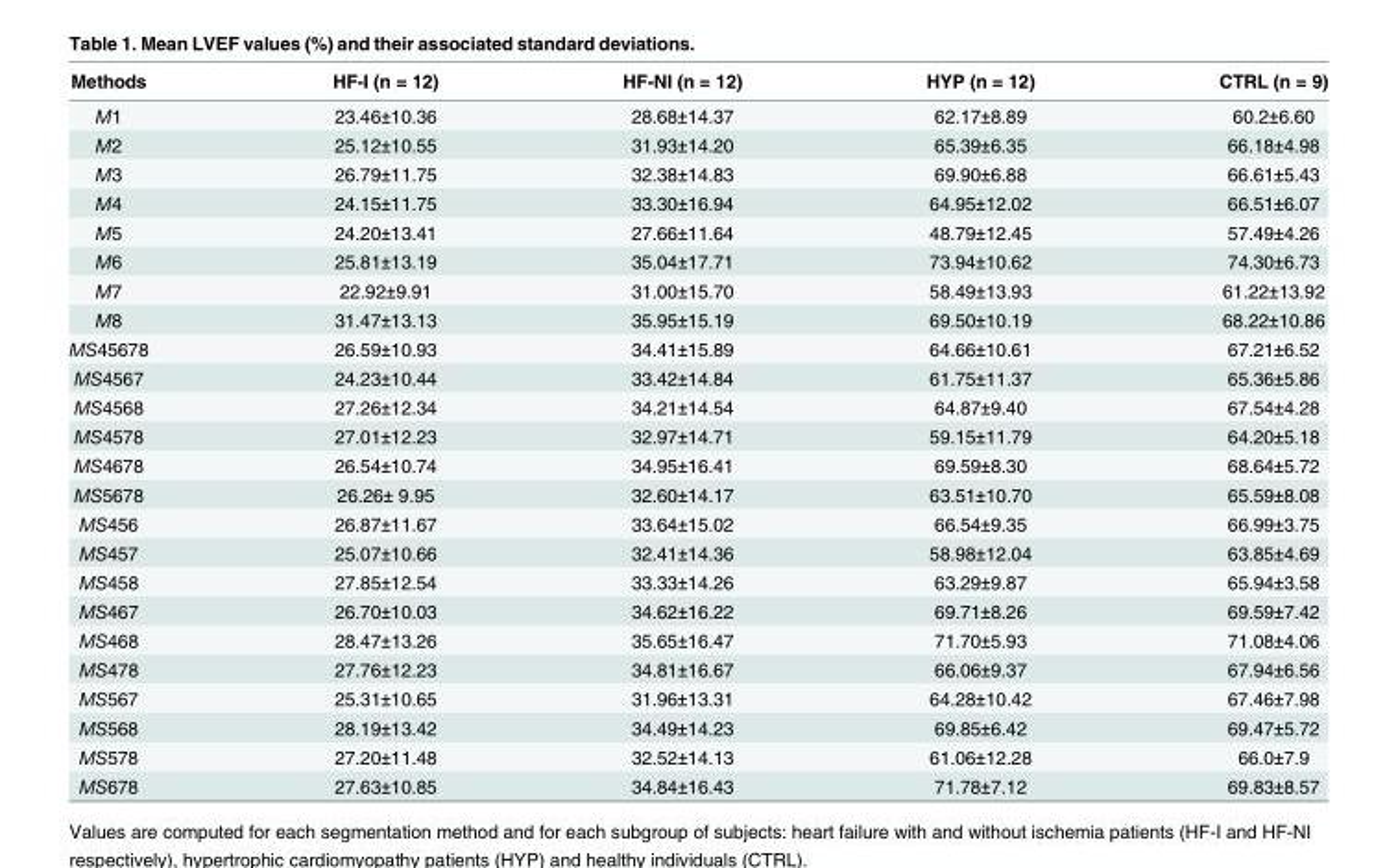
<table><thead><tr><td>Methods</td><td>HF-I (n = 12)</td><td>HF-NI (n = 12)</td><td>HYP (n = 12)</td><td>CTRL (n = 9)</td></tr></thead><tbody><tr><td>M1</td><td>23.46±10.36</td><td>28.68±14.37</td><td>62.17±8.89</td><td>60.2±6.60</td></tr><tr><td>M2</td><td>25.12±10.55</td><td>31.93±14.20</td><td>65.39±6.35</td><td>66.18±4.98</td></tr><tr><td>M3</td><td>26.79±11.75</td><td>32.38±14.83</td><td>69.90±6.88</td><td>66.61±5.43</td></tr><tr><td>M4</td><td>24.15±11.75</td><td>33.30±16.94</td><td>64.95±12.02</td><td>66.51±6.07</td></tr><tr><td>M5</td><td>24.20±13.41</td><td>27.66±11.64</td><td>48.79±12.45</td><td>57.49±4.26</td></tr><tr><td>M6</td><td>25.81±13.19</td><td>35.04±17.71</td><td>73.94±10.62</td><td>74.30±6.73</td></tr><tr><td>M7</td><td>22.92±9.91</td><td>31.00±15.70</td><td>58.49±13.93</td><td>61.22±13.92</td></tr><tr><td>M8</td><td>31.47±13.13</td><td>35.95±15.19</td><td>69.50±10.19</td><td>68.22±10.86</td></tr><tr><td>MS45678</td><td>26.59±10.93</td><td>34.41±15.89</td><td>64.66±10.61</td><td>67.21±6.52</td></tr><tr><td>MS4567</td><td>24.23±10.44</td><td>33.42±14.84</td><td>61.75±11.37</td><td>65.36±5.86</td></tr><tr><td>MS4568</td><td>27.26±12.34</td><td>34.21±14.54</td><td>64.87±9.40</td><td>67.54±4.28</td></tr><tr><td>MS4578</td><td>27.01±12.23</td><td>32.97±14.71</td><td>59.15±11.79</td><td>64.20±5.18</td></tr><tr><td>MS4678</td><td>26.54±10.74</td><td>34.95±16.41</td><td>69.59±8.30</td><td>68.64±5.72</td></tr><tr><td>MS5678</td><td>26.26± 9.95</td><td>32.60±14.17</td><td>63.51±10.70</td><td>65.59±8.08</td></tr><tr><td>MS456</td><td>26.87±11.67</td><td>33.64±15.02</td><td>66.54±9.35</td><td>66.99±3.75</td></tr><tr><td>MS457</td><td>25.07±10.66</td><td>32.41±14.36</td><td>58.98±12.04</td><td>63.85±4.69</td></tr><tr><td>MS458</td><td>27.85±12.54</td><td>33.33±14.26</td><td>63.29±9.87</td><td>65.94±3.58</td></tr><tr><td>MS467</td><td>26.70±10.03</td><td>34.62±16.22</td><td>69.71±8.26</td><td>69.59±7.42</td></tr><tr><td>MS468</td><td>28.47±13.26</td><td>35.65±16.47</td><td>71.70±5.93</td><td>71.08±4.06</td></tr><tr><td>MS478</td><td>27.76±12.23</td><td>34.81±16.67</td><td>66.06±9.37</td><td>67.94±6.56</td></tr><tr><td>MS567</td><td>25.31±10.65</td><td>31.96±13.31</td><td>64.28±10.42</td><td>67.46±7.98</td></tr><tr><td>MS568</td><td>28.19±13.42</td><td>34.49±14.23</td><td>69.85±6.42</td><td>69.47±5.72</td></tr><tr><td>MS578</td><td>27.20±11.48</td><td>32.52±14.13</td><td>61.06±12.28</td><td>66.0±7.9</td></tr><tr><td>MS678</td><td>27.63±10.85</td><td>34.84±16.43</td><td>71.78±7.12</td><td>69.83±8.57</td></tr></tbody></table>